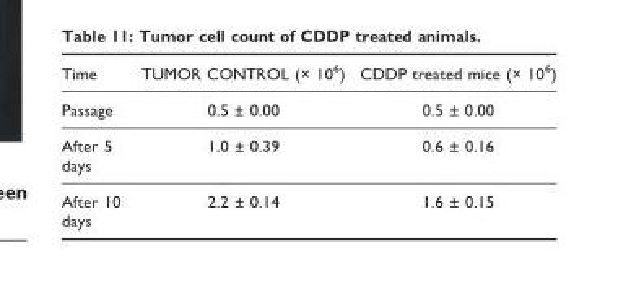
<table><thead><tr><td>Time</td><td>TUMOR CONTROL (× 10<sup>6</sup>)</td><td>CDDP treated mice (× 10<sup>6</sup>)</td></tr></thead><tbody><tr><td>Passage</td><td>0.5 ± 0.00</td><td>0.5 ± 0.00</td></tr><tr><td>After 5 days</td><td>1.0 ± 0.39</td><td>0.6 ± 0.16</td></tr><tr><td>After 10 days</td><td>2.2 ± 0.14</td><td>1.6 ± 0.15</td></tr></tbody></table>